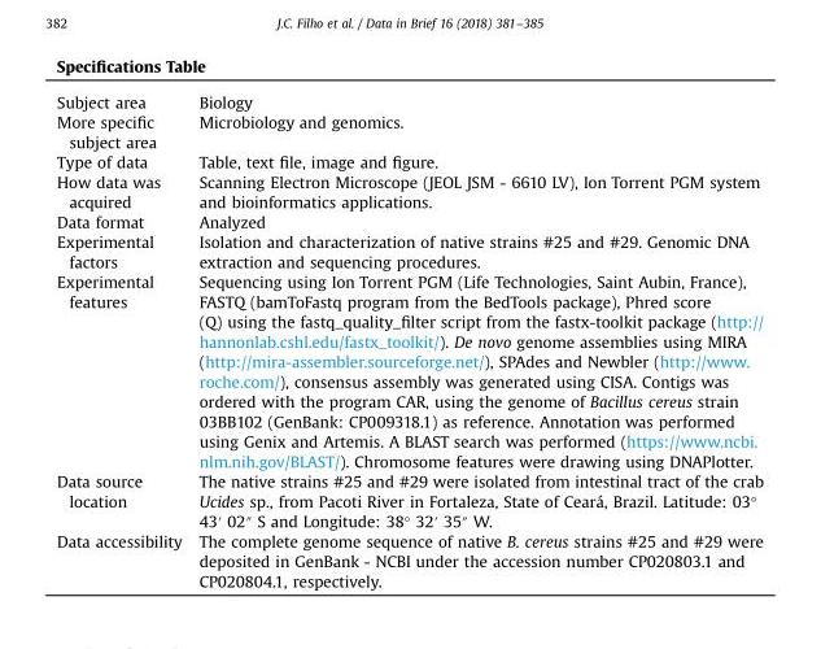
<table><tbody><tr><td colspan="2">Specifications Table</td></tr><tr><td>Subject area</td><td>Biology</td></tr><tr><td>More specific subject area</td><td>Microbiology and genomics.</td></tr><tr><td>Type of data</td><td>Table, text file, image and figure.</td></tr><tr><td>How data was acquired</td><td>Scanning Electron Microscope (JEOL JSM - 6610 LV), Ion Torrent PGM system and bioinformatics applications.</td></tr><tr><td>Data format</td><td>Analyzed</td></tr><tr><td>Experimental factors</td><td>Isolation and characterization of native strains #25 and #29. Genomic DNA extraction and sequencing procedures.</td></tr><tr><td>Experimental features</td><td>Sequencing using Ion Torrent PGM (Life Technologies, Saint Aubin, France), FASTQ (bamToFastq program from the BedTools package), Phred score (Q) using the fastq_quality_filter script from the fastx-toolkit package (http:// hannonlab.cshl.edu/fastx_toolkit/). De novo genome assemblies using MIRA (http://mira-assembler.sourceforge.net/), SPAdes and Newbler (http://www. roche.com/), consensus assembly was generated using CISA. Contigs was ordered with the program CAR, using the genome of Bacillus cereus strain 03BB102 (GenBank: CP009318.1) as reference. Annotation was performed using Genix and Artemis. A BLAST search was performed (https://www.ncbi. nlm.nih.gov/BLAST/). Chromosome features were drawing using DNAPlotter.</td></tr><tr><td>Data source location</td><td>The native strains #25 and #29 were isolated from intestinal tract of the crab Ucides sp., from Pacoti River in Fortaleza, State of Ceará, Brazil. Latitude: 03° 43′ 02″ S and Longitude: 38° 32′ 35″ W.</td></tr><tr><td>Data accessibility</td><td>The complete genome sequence of native B. cereus strains #25 and #29 were deposited in GenBank - NCBI under the accession number CP020803.1 and CP020804.1, respectively.</td></tr></tbody></table>